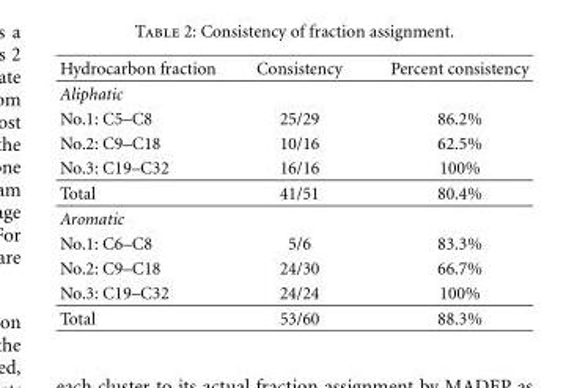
<table><thead><tr><td>Hydrocarbon fraction</td><td>Consistency</td><td>Percent consistency</td></tr></thead><tbody><tr><td colspan="3">Aliphatic</td></tr><tr><td>No.1: C5–C8</td><td>25/29</td><td>86.2%</td></tr><tr><td>No.2: C9–C18</td><td>10/16</td><td>62.5%</td></tr><tr><td>No.3: C19–C32</td><td>16/16</td><td>100%</td></tr><tr><td>Total</td><td>41/51</td><td>80.4%</td></tr><tr><td colspan="3">Aromatic</td></tr><tr><td>No.1: C6–C8</td><td>5/6</td><td>83.3%</td></tr><tr><td>No.2: C9–C18</td><td>24/30</td><td>66.7%</td></tr><tr><td>No.3: C19–C32</td><td>24/24</td><td>100%</td></tr><tr><td>Total</td><td>53/60</td><td>88.3%</td></tr></tbody></table>